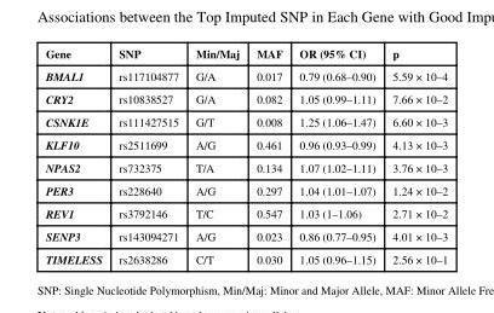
<table><thead><tr><td>Gene</td><td>SNP</td><td>Min/Maj</td><td>MAF</td><td>OR (95% CI)</td><td>p</td></tr></thead><tbody><tr><td>BMAL1</td><td>rs117104877</td><td>G/A</td><td>0.017</td><td>0.79 (0.68–0.90)</td><td>5.59 × 10–4</td></tr><tr><td>CRY2</td><td>rs10838527</td><td>G/A</td><td>0.082</td><td>1.05 (0.99–1.11)</td><td>7.66 × 10–2</td></tr><tr><td>CSNK1E</td><td>rs111427515</td><td>G/T</td><td>0.008</td><td>1.25 (1.06–1.47)</td><td>6.60 × 10–3</td></tr><tr><td>KLF10</td><td>rs2511699</td><td>A/G</td><td>0.461</td><td>0.96 (0.93–0.99)</td><td>4.13 × 10–3</td></tr><tr><td>NPAS2</td><td>rs732375</td><td>T/A</td><td>0.134</td><td>1.07 (1.02–1.11)</td><td>3.76 × 10–3</td></tr><tr><td>PER3</td><td>rs228640</td><td>A/G</td><td>0.297</td><td>1.04 (1.01–1.07)</td><td>1.24 × 10–2</td></tr><tr><td>REV1</td><td>rs3792146</td><td>T/C</td><td>0.547</td><td>1.03 (1–1.06)</td><td>2.71 × 10–2</td></tr><tr><td>SENP3</td><td>rs143094271</td><td>A/G</td><td>0.023</td><td>0.86 (0.77–0.95)</td><td>4.01 × 10–3</td></tr><tr><td>TIMELESS</td><td>rs2638286</td><td>C/T</td><td>0.030</td><td>1.05 (0.96–1.15)</td><td>2.56 × 10–1</td></tr></tbody></table>